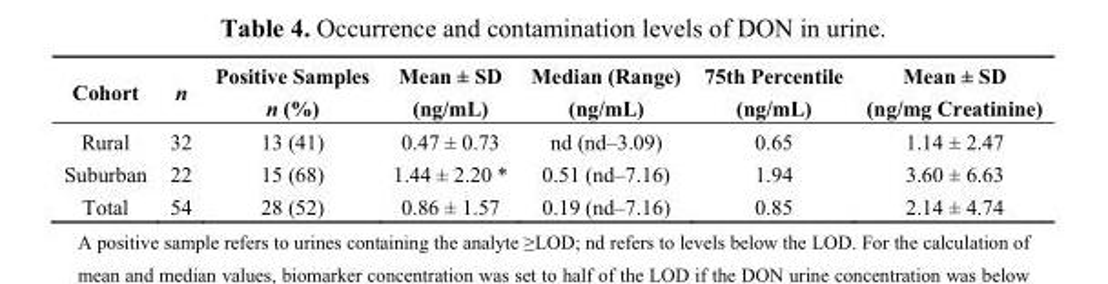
<table><thead><tr><td>Cohort</td><td>n</td><td>Positive Samples n (%)</td><td>Mean ± SD (ng/mL)</td><td>Median (Range) (ng/mL)</td><td>75th Percentile (ng/mL)</td><td>Mean ± SD (ng/mg Creatinine)</td></tr></thead><tbody><tr><td>Rural</td><td>32</td><td>13 (41)</td><td>0.47 ± 0.73</td><td>nd (nd–3.09)</td><td>0.65</td><td>1.14 ± 2.47</td></tr><tr><td>Suburban</td><td>22</td><td>15 (68)</td><td>1.44 ± 2.20 *</td><td>0.51 (nd–7.16)</td><td>1.94</td><td>3.60 ± 6.63</td></tr><tr><td>Total</td><td>54</td><td>28 (52)</td><td>0.86 ± 1.57</td><td>0.19 (nd–7.16)</td><td>0.85</td><td>2.14 ± 4.74</td></tr></tbody></table>